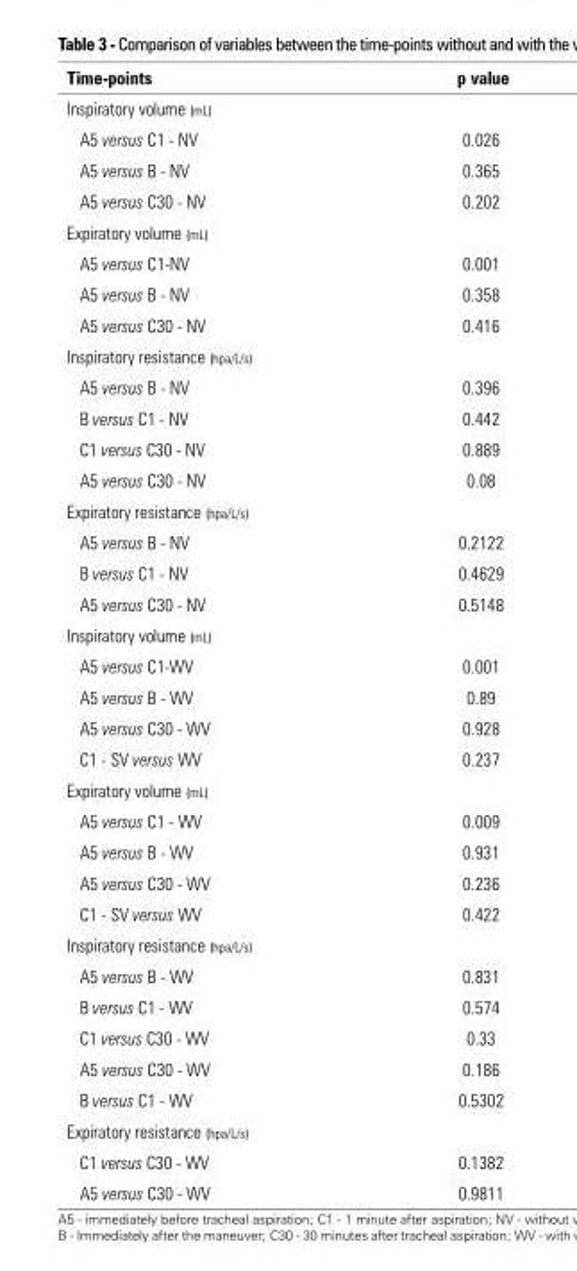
<table><thead><tr><td>Time-points</td><td>p value</td></tr></thead><tbody><tr><td colspan="2">Inspiratory volume (mL)</td></tr><tr><td>A5 versus C1 - NV</td><td>0.026</td></tr><tr><td>A5 versus B - NV</td><td>0.365</td></tr><tr><td>A5 versus C30 - NV</td><td>0.202</td></tr><tr><td colspan="2">Expiratory volume (mL)</td></tr><tr><td>A5 versus C1-NV</td><td>0.001</td></tr><tr><td>A5 versus B - NV</td><td>0.358</td></tr><tr><td>A5 versus C30 - NV</td><td>0.416</td></tr><tr><td colspan="2">Inspiratory resistance (hpa/L/s)</td></tr><tr><td>A5 versus B - NV</td><td>0.396</td></tr><tr><td>B versus C1 - NV</td><td>0.442</td></tr><tr><td>C1 versus C30 - NV</td><td>0.889</td></tr><tr><td>A5 versus C30 - NV</td><td>0.08</td></tr><tr><td colspan="2">Expiratory resistance (hpa/L/s)</td></tr><tr><td>A5 versus B - NV</td><td>0.2122</td></tr><tr><td>B versus C1 - NV</td><td>0.4629</td></tr><tr><td>A5 versus C30 - NV</td><td>0.5148</td></tr><tr><td colspan="2">Inspiratory volume (mL)</td></tr><tr><td>A5 versus C1-WV</td><td>0.001</td></tr><tr><td>A5 versus B - WV</td><td>0.89</td></tr><tr><td>A5 versus C30 - WV</td><td>0.928</td></tr><tr><td>C1 - SV versus WV</td><td>0.237</td></tr><tr><td colspan="2">Expiratory volume (mL)</td></tr><tr><td>A5 versus C1 - WV</td><td>0.009</td></tr><tr><td>A5 versus B - WV</td><td>0.931</td></tr><tr><td>A5 versus C30 - WV</td><td>0.236</td></tr><tr><td>C1 - SV versus WV</td><td>0.422</td></tr><tr><td colspan="2">Inspiratory resistance (hpa/L/s)</td></tr><tr><td>A5 versus B - WV</td><td>0.831</td></tr><tr><td>B versus C1 - WV</td><td>0.574</td></tr><tr><td>C1 versus C30 - WV</td><td>0.33</td></tr><tr><td>A5 versus C30 - WV</td><td>0.186</td></tr><tr><td>B versus C1 - WV</td><td>0.5302</td></tr><tr><td colspan="2">Expiratory resistance (hpa/L/s)</td></tr><tr><td>C1 versus C30 - WV</td><td>0.1382</td></tr><tr><td>A5 versus C30 - WV</td><td>0.9811</td></tr></tbody></table>